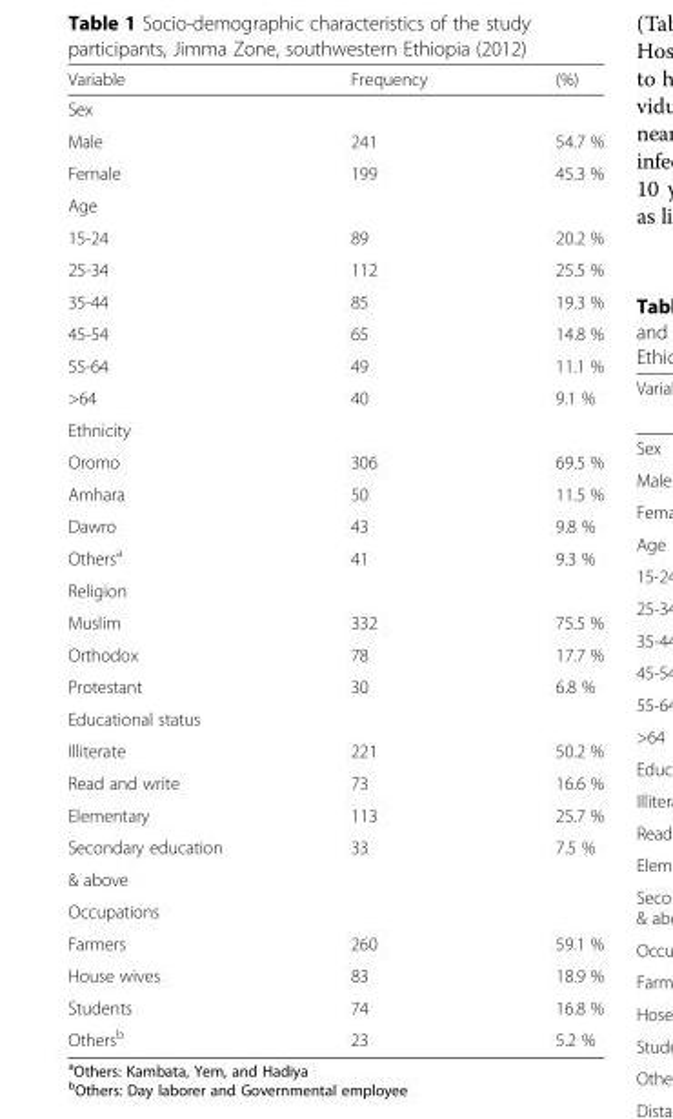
<table><thead><tr><td>Variable</td><td>Frequency</td><td>(%)</td></tr></thead><tbody><tr><td colspan="3">Sex</td></tr><tr><td>Male</td><td>241</td><td>54.7 %</td></tr><tr><td>Female</td><td>199</td><td>45.3 %</td></tr><tr><td colspan="3">Age</td></tr><tr><td>15-24</td><td>89</td><td>20.2 %</td></tr><tr><td>25-34</td><td>112</td><td>25.5 %</td></tr><tr><td>35-44</td><td>85</td><td>19.3 %</td></tr><tr><td>45-54</td><td>65</td><td>14.8 %</td></tr><tr><td>55-64</td><td>49</td><td>11.1 %</td></tr><tr><td>&gt;64</td><td>40</td><td>9.1 %</td></tr><tr><td colspan="3">Ethnicity</td></tr><tr><td>Oromo</td><td>306</td><td>69.5 %</td></tr><tr><td>Amhara</td><td>50</td><td>11.5 %</td></tr><tr><td>Dawro</td><td>43</td><td>9.8 %</td></tr><tr><td>Others<sup>a</sup></td><td>41</td><td>9.3 %</td></tr><tr><td colspan="3">Religion</td></tr><tr><td>Muslim</td><td>332</td><td>75.5 %</td></tr><tr><td>Orthodox</td><td>78</td><td>17.7 %</td></tr><tr><td>Protestant</td><td>30</td><td>6.8 %</td></tr><tr><td colspan="3">Educational status</td></tr><tr><td>Illiterate</td><td>221</td><td>50.2 %</td></tr><tr><td>Read and write</td><td>73</td><td>16.6 %</td></tr><tr><td>Elementary</td><td>113</td><td>25.7 %</td></tr><tr><td>Secondary education</td><td>33</td><td>7.5 %</td></tr><tr><td colspan="3">&amp; above</td></tr><tr><td colspan="3">Occupations</td></tr><tr><td>Farmers</td><td>260</td><td>59.1 %</td></tr><tr><td>House wives</td><td>83</td><td>18.9 %</td></tr><tr><td>Students</td><td>74</td><td>16.8 %</td></tr><tr><td>Others<sup>b</sup></td><td>23</td><td>5.2 %</td></tr></tbody></table>